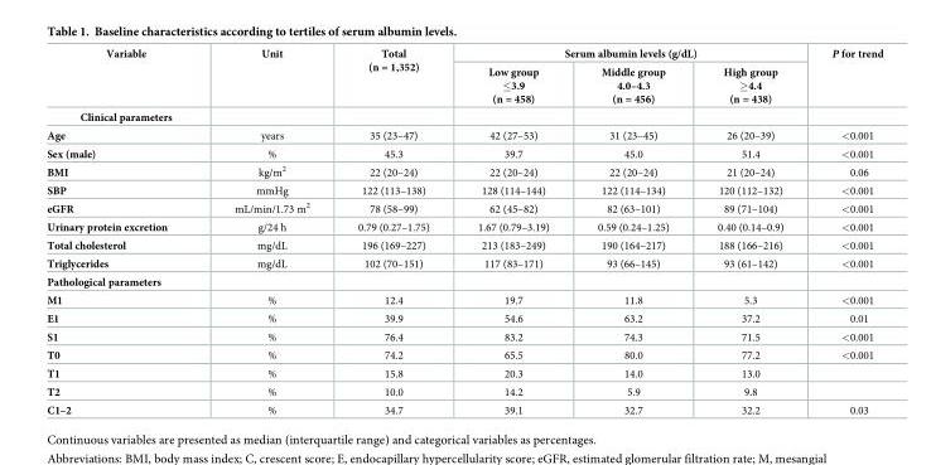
<table><thead><tr><td rowspan="2">Variable</td><td rowspan="2">Unit</td><td rowspan="2">Total (n = 1,352)</td><td colspan="3">Serum albumin levels (g/dL)</td><td rowspan="2">P for trend</td></tr><tr><td>Low group ≤3.9 (n = 458)</td><td>Middle group 4.0–4.3 (n = 456)</td><td>High group ≥4.4 (n = 438)</td></tr></thead><tbody><tr><td colspan="7">Clinical parameters</td></tr><tr><td>Age</td><td>years</td><td>35 (23–47)</td><td>42 (27–53)</td><td>31 (23–45)</td><td>26 (20–39)</td><td>&lt;0.001</td></tr><tr><td>Sex (male)</td><td>%</td><td>45.3</td><td>39.7</td><td>45.0</td><td>51.4</td><td>&lt;0.001</td></tr><tr><td>BMI</td><td>kg/m<sup>2</sup></td><td>22 (20–24)</td><td>22 (20–24)</td><td>22 (20–24)</td><td>21 (20–24)</td><td>0.06</td></tr><tr><td>SBP</td><td>mmHg</td><td>122 (113–138)</td><td>128 (114–144)</td><td>122 (114–134)</td><td>120 (112–132)</td><td>&lt;0.001</td></tr><tr><td>eGFR</td><td>mL/min/1.73 m<sup>2</sup></td><td>78 (58–99)</td><td>62 (45–82)</td><td>82 (63–101)</td><td>89 (71–104)</td><td>&lt;0.001</td></tr><tr><td>Urinary protein excretion</td><td>g/24 h</td><td>0.79 (0.27–1.75)</td><td>1.67 (0.79–3.19)</td><td>0.59 (0.24–1.25)</td><td>0.40 (0.14–0.9)</td><td>&lt;0.001</td></tr><tr><td>Total cholesterol</td><td>mg/dL</td><td>196 (169–227)</td><td>213 (183–249)</td><td>190 (164–217)</td><td>188 (166–216)</td><td>&lt;0.001</td></tr><tr><td>Triglycerides</td><td>mg/dL</td><td>102 (70–151)</td><td>117 (83–171)</td><td>93 (66–145)</td><td>93 (61–142)</td><td>&lt;0.001</td></tr><tr><td colspan="7">Pathological parameters</td></tr><tr><td>M1</td><td>%</td><td>12.4</td><td>19.7</td><td>11.8</td><td>5.3</td><td>&lt;0.001</td></tr><tr><td>E1</td><td>%</td><td>39.9</td><td>54.6</td><td>63.2</td><td>37.2</td><td>0.01</td></tr><tr><td>S1</td><td>%</td><td>76.4</td><td>83.2</td><td>74.3</td><td>71.5</td><td>&lt;0.001</td></tr><tr><td>T0</td><td>%</td><td>74.2</td><td>65.5</td><td>80.0</td><td>77.2</td><td>&lt;0.001</td></tr><tr><td>T1</td><td>%</td><td>15.8</td><td>20.3</td><td>14.0</td><td>13.0</td><td></td></tr><tr><td>T2</td><td>%</td><td>10.0</td><td>14.2</td><td>5.9</td><td>9.8</td><td></td></tr><tr><td>C1–2</td><td>%</td><td>34.7</td><td>39.1</td><td>32.7</td><td>32.2</td><td>0.03</td></tr></tbody></table>